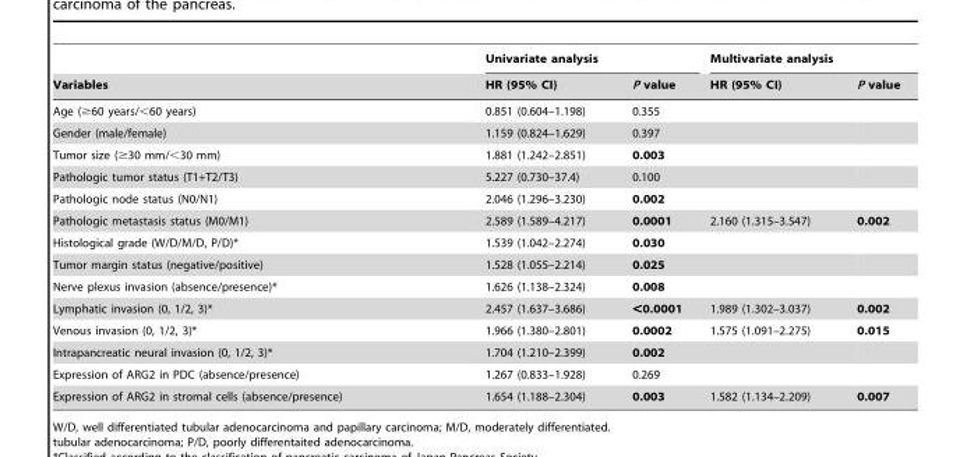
<table><thead><tr><td rowspan="2">Variables</td><td colspan="2">Univariate analysis</td><td colspan="2">Multivariate analysis</td></tr><tr><td>HR (95% CI)</td><td>P value</td><td>HR (95% CI)</td><td>P value</td></tr></thead><tbody><tr><td>Age (≥60 years/&lt;60 years)</td><td>0.851 (0.604–1.198)</td><td>0.355</td><td></td><td></td></tr><tr><td>Gender (male/female)</td><td>1.159 (0.824–1.629)</td><td>0.397</td><td></td><td></td></tr><tr><td>Tumor size (≥30 mm/&lt;30 mm)</td><td>1.881 (1.242–2.851)</td><td>0.003</td><td></td><td></td></tr><tr><td>Pathologic tumor status (T1+T2/T3)</td><td>5.227 (0.730–37.4)</td><td>0.100</td><td></td><td></td></tr><tr><td>Pathologic node status (N0/N1)</td><td>2.046 (1.296–3.230)</td><td>0.002</td><td></td><td></td></tr><tr><td>Pathologic metastasis status (M0/M1)</td><td>2.589 (1.589–4.217)</td><td>0.0001</td><td>2.160 (1.315–3.547)</td><td>0.002</td></tr><tr><td>Histological grade (W/D/M/D, P/D)*</td><td>1.539 (1.042–2.274)</td><td>0.030</td><td></td><td></td></tr><tr><td>Tumor margin status (negative/positive)</td><td>1.528 (1.055–2.214)</td><td>0.025</td><td></td><td></td></tr><tr><td>Nerve plexus invasion (absence/presence)*</td><td>1.626 (1.138–2.324)</td><td>0.008</td><td></td><td></td></tr><tr><td>Lymphatic invasion (0, 1/2, 3)*</td><td>2.457 (1.637–3.686)</td><td>&lt;0.0001</td><td>1.989 (1.302–3.037)</td><td>0.002</td></tr><tr><td>Venous invasion (0, 1/2, 3)*</td><td>1.966 (1.380–2.801)</td><td>0.0002</td><td>1.575 (1.091–2.275)</td><td>0.015</td></tr><tr><td>Intrapancreatic neural invasion (0, 1/2, 3)*</td><td>1.704 (1.210–2.399)</td><td>0.002</td><td></td><td></td></tr><tr><td>Expression of ARG2 in PDC (absence/presence)</td><td>1.267 (0.833–1.928)</td><td>0.269</td><td></td><td></td></tr><tr><td>Expression of ARG2 in stromal cells (absence/presence)</td><td>1.654 (1.188–2.304)</td><td>0.003</td><td>1.582 (1.134–2.209)</td><td>0.007</td></tr></tbody></table>